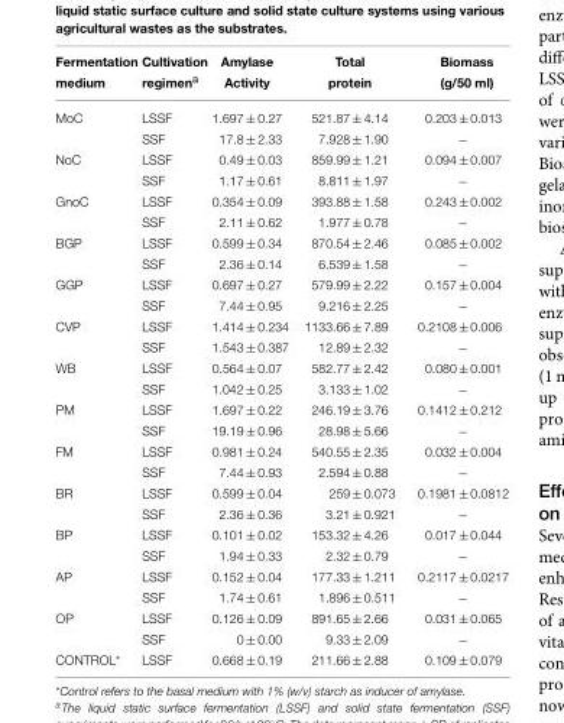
<table><thead><tr><td>Fermentation medium</td><td>Cultivation regimen<sup>a</sup></td><td>Amylase Activity</td><td>Total protein</td><td>Biomass (g/50 ml)</td></tr></thead><tbody><tr><td rowspan="2">MoC</td><td>LSSF</td><td>1.697 ± 0.27</td><td>521.87 ± 4.14</td><td>0.203 ± 0.013</td></tr><tr><td>SSF</td><td>17.8 ± 2.33</td><td>7.928 ± 1.90</td><td>−</td></tr><tr><td rowspan="2">NoC</td><td>LSSF</td><td>0.49 ± 0.03</td><td>859.99 ± 1.21</td><td>0.094 ± 0.007</td></tr><tr><td>SSF</td><td>1.17 ± 0.61</td><td>8.811 ± 1.97</td><td>−</td></tr><tr><td rowspan="2">GnoC</td><td>LSSF</td><td>0.354 ± 0.09</td><td>393.88 ± 1.58</td><td>0.243 ± 0.002</td></tr><tr><td>SSF</td><td>2.11 ± 0.62</td><td>1.977 ± 0.78</td><td>−</td></tr><tr><td rowspan="2">BGP</td><td>LSSF</td><td>0.599 ± 0.34</td><td>870.54 ± 2.46</td><td>0.085 ± 0.002</td></tr><tr><td>SSF</td><td>2.36 ± 0.14</td><td>6.539 ± 1.58</td><td>−</td></tr><tr><td rowspan="2">GGP</td><td>LSSF</td><td>0.697 ± 0.27</td><td>579.99 ± 2.22</td><td>0.157 ± 0.004</td></tr><tr><td>SSF</td><td>7.44 ± 0.95</td><td>9.216 ± 2.25</td><td>−</td></tr><tr><td rowspan="2">CVP</td><td>LSSF</td><td>1.414 ± 0.234</td><td>1133.66 ± 7.89</td><td>0.2108 ± 0.006</td></tr><tr><td>SSF</td><td>1.543 ± 0.387</td><td>12.89 ± 2.32</td><td>−</td></tr><tr><td rowspan="2">WB</td><td>LSSF</td><td>0.564 ± 0.07</td><td>582.77 ± 2.42</td><td>0.080 ± 0.001</td></tr><tr><td>SSF</td><td>1.042 ± 0.25</td><td>3.133 ± 1.02</td><td>−</td></tr><tr><td rowspan="2">PM</td><td>LSSF</td><td>1.697 ± 0.22</td><td>246.19 ± 3.76</td><td>0.1412 ± 0.212</td></tr><tr><td>SSF</td><td>19.19 ± 0.96</td><td>28.98 ± 5.66</td><td>−</td></tr><tr><td rowspan="2">FM</td><td>LSSF</td><td>0.981 ± 0.24</td><td>540.55 ± 2.35</td><td>0.032 ± 0.004</td></tr><tr><td>SSF</td><td>7.44 ± 0.93</td><td>2.594 ± 0.88</td><td>−</td></tr><tr><td rowspan="2">BR</td><td>LSSF</td><td>0.599 ± 0.04</td><td>259 ± 0.073</td><td>0.1981 ± 0.0812</td></tr><tr><td>SSF</td><td>2.36 ± 0.36</td><td>3.21 ± 0.921</td><td>−</td></tr><tr><td rowspan="2">BP</td><td>LSSF</td><td>0.101 ± 0.02</td><td>153.32 ± 4.26</td><td>0.017 ± 0.044</td></tr><tr><td>SSF</td><td>1.94 ± 0.33</td><td>2.32 ± 0.79</td><td>−</td></tr><tr><td rowspan="2">AP</td><td>LSSF</td><td>0.152 ± 0.04</td><td>177.33 ± 1.211</td><td>0.2117 ± 0.0217</td></tr><tr><td>SSF</td><td>1.74 ± 0.61</td><td>1.896 ± 0.511</td><td>−</td></tr><tr><td rowspan="2">OP</td><td>LSSF</td><td>0.126 ± 0.09</td><td>891.65 ± 2.66</td><td>0.031 ± 0.065</td></tr><tr><td>SSF</td><td>0 ± 0.00</td><td>9.33 ± 2.09</td><td>−</td></tr><tr><td>CONTROL*</td><td>LSSF</td><td>0.668 ± 0.19</td><td>211.66 ± 2.88</td><td>0.109 ± 0.079</td></tr></tbody></table>